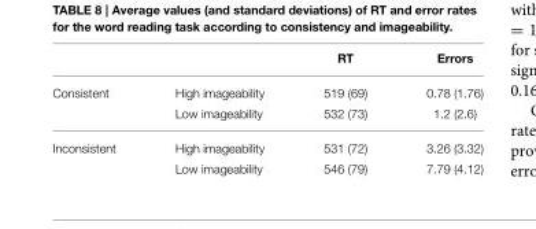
<table><thead><tr><td></td><td></td><td>RT</td><td>Errors</td></tr></thead><tbody><tr><td rowspan="2">Consistent</td><td>High imageability</td><td>519 (69)</td><td>0.78 (1.76)</td></tr><tr><td>Low imageability</td><td>532 (73)</td><td>1.2 (2.6)</td></tr><tr><td rowspan="2">Inconsistent</td><td>High imageability</td><td>531 (72)</td><td>3.26 (3.32)</td></tr><tr><td>Low imageability</td><td>546 (79)</td><td>7.79 (4.12)</td></tr></tbody></table>